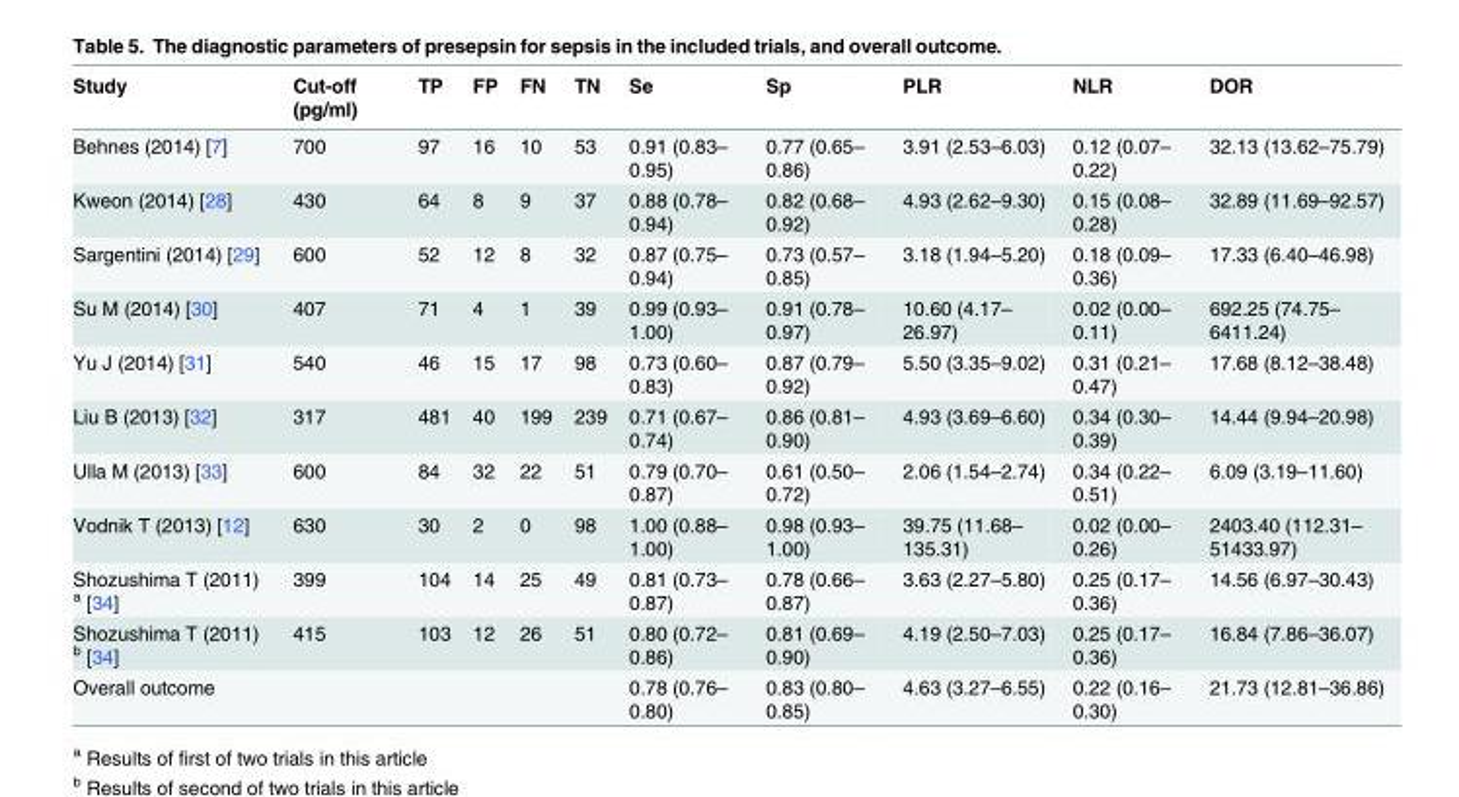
<table><thead><tr><td>Study</td><td>Cut-off (pg/ml)</td><td>TP</td><td>FP</td><td>FN</td><td>TN</td><td>Se</td><td>Sp</td><td>PLR</td><td>NLR</td><td>DOR</td></tr></thead><tbody><tr><td>Behnes (2014) [7]</td><td>700</td><td>97</td><td>16</td><td>10</td><td>53</td><td>0.91 (0.83– 0.95)</td><td>0.77 (0.65– 0.86)</td><td>3.91 (2.53–6.03)</td><td>0.12 (0.07– 0.22)</td><td>32.13 (13.62–75.79)</td></tr><tr><td>Kweon (2014) [28]</td><td>430</td><td>64</td><td>8</td><td>9</td><td>37</td><td>0.88 (0.78– 0.94)</td><td>0.82 (0.68– 0.92)</td><td>4.93 (2.62–9.30)</td><td>0.15 (0.08– 0.28)</td><td>32.89 (11.69–92.57)</td></tr><tr><td>Sargentini (2014) [29]</td><td>600</td><td>52</td><td>12</td><td>8</td><td>32</td><td>0.87 (0.75– 0.94)</td><td>0.73 (0.57– 0.85)</td><td>3.18 (1.94–5.20)</td><td>0.18 (0.09– 0.36)</td><td>17.33 (6.40–46.98)</td></tr><tr><td>Su M (2014) [30]</td><td>407</td><td>71</td><td>4</td><td>1</td><td>39</td><td>0.99 (0.93– 1.00)</td><td>0.91 (0.78– 0.97)</td><td>10.60 (4.17– 26.97)</td><td>0.02 (0.00– 0.11)</td><td>692.25 (74.75– 6411.24)</td></tr><tr><td>Yu J (2014) [31]</td><td>540</td><td>46</td><td>15</td><td>17</td><td>98</td><td>0.73 (0.60– 0.83)</td><td>0.87 (0.79– 0.92)</td><td>5.50 (3.35–9.02)</td><td>0.31 (0.21– 0.47)</td><td>17.68 (8.12–38.48)</td></tr><tr><td>Liu B (2013) [32]</td><td>317</td><td>481</td><td>40</td><td>199</td><td>239</td><td>0.71 (0.67– 0.74)</td><td>0.86 (0.81– 0.90)</td><td>4.93 (3.69–6.60)</td><td>0.34 (0.30– 0.39)</td><td>14.44 (9.94–20.98)</td></tr><tr><td>Ulla M (2013) [33]</td><td>600</td><td>84</td><td>32</td><td>22</td><td>51</td><td>0.79 (0.70– 0.87)</td><td>0.61 (0.50– 0.72)</td><td>2.06 (1.54–2.74)</td><td>0.34 (0.22– 0.51)</td><td>6.09 (3.19–11.60)</td></tr><tr><td>Vodnik T (2013) [12]</td><td>630</td><td>30</td><td>2</td><td>0</td><td>98</td><td>1.00 (0.88– 1.00)</td><td>0.98 (0.93– 1.00)</td><td>39.75 (11.68– 135.31)</td><td>0.02 (0.00– 0.26)</td><td>2403.40 (112.31– 51433.97)</td></tr><tr><td>Shozushima T (2011) <sup>a</sup> [34]</td><td>399</td><td>104</td><td>14</td><td>25</td><td>49</td><td>0.81 (0.73– 0.87)</td><td>0.78 (0.66– 0.87)</td><td>3.63 (2.27–5.80)</td><td>0.25 (0.17– 0.36)</td><td>14.56 (6.97–30.43)</td></tr><tr><td>Shozushima T (2011) <sup>b</sup> [34]</td><td>415</td><td>103</td><td>12</td><td>26</td><td>51</td><td>0.80 (0.72– 0.86)</td><td>0.81 (0.69– 0.90)</td><td>4.19 (2.50–7.03)</td><td>0.25 (0.17– 0.36)</td><td>16.84 (7.86–36.07)</td></tr><tr><td>Overall outcome</td><td></td><td></td><td></td><td></td><td></td><td>0.78 (0.76– 0.80)</td><td>0.83 (0.80– 0.85)</td><td>4.63 (3.27–6.55)</td><td>0.22 (0.16– 0.30)</td><td>21.73 (12.81–36.86)</td></tr></tbody></table>